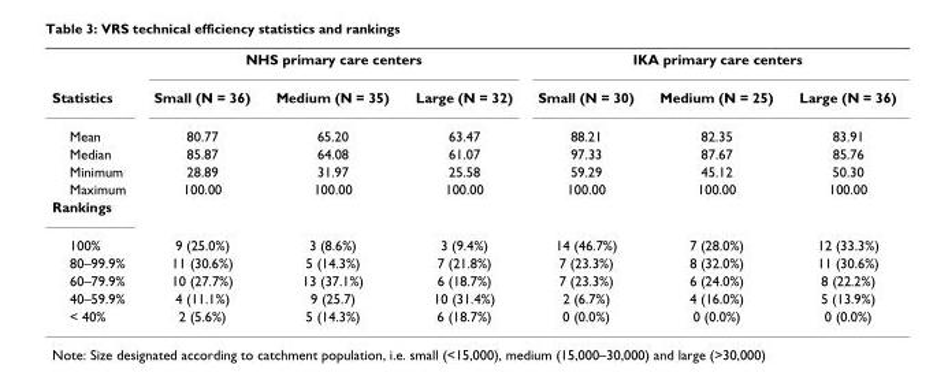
<table><thead><tr><td rowspan="2">Statistics</td><td colspan="3">NHS primary care centers</td><td colspan="3">IKA primary care centers</td></tr><tr><td>Small (N = 36)</td><td>Medium (N = 35)</td><td>Large (N = 32)</td><td>Small (N = 30)</td><td>Medium (N = 25)</td><td>Large (N = 36)</td></tr></thead><tbody><tr><td>Mean</td><td>80.77</td><td>65.20</td><td>63.47</td><td>88.21</td><td>82.35</td><td>83.91</td></tr><tr><td>Median</td><td>85.87</td><td>64.08</td><td>61.07</td><td>97.33</td><td>87.67</td><td>85.76</td></tr><tr><td>Minimum</td><td>28.89</td><td>31.97</td><td>25.58</td><td>59.29</td><td>45.12</td><td>50.30</td></tr><tr><td>Maximum</td><td>100.00</td><td>100.00</td><td>100.00</td><td>100.00</td><td>100.00</td><td>100.00</td></tr><tr><td colspan="7">Rankings</td></tr><tr><td>100%</td><td>9 (25.0%)</td><td>3 (8.6%)</td><td>3 (9.4%)</td><td>14 (46.7%)</td><td>7 (28.0%)</td><td>12 (33.3%)</td></tr><tr><td>80–99.9%</td><td>11 (30.6%)</td><td>5 (14.3%)</td><td>7 (21.8%)</td><td>7 (23.3%)</td><td>8 (32.0%)</td><td>11 (30.6%)</td></tr><tr><td>60–79.9%</td><td>10 (27.7%)</td><td>13 (37.1%)</td><td>6 (18.7%)</td><td>7 (23.3%)</td><td>6 (24.0%)</td><td>8 (22.2%)</td></tr><tr><td>40–59.9%</td><td>4 (11.1%)</td><td>9 (25.7)</td><td>10 (31.4%)</td><td>2 (6.7%)</td><td>4 (16.0%)</td><td>5 (13.9%)</td></tr><tr><td>&lt; 40%</td><td>2 (5.6%)</td><td>5 (14.3%)</td><td>6 (18.7%)</td><td>0 (0.0%)</td><td>0 (0.0%)</td><td>0 (0.0%)</td></tr></tbody></table>